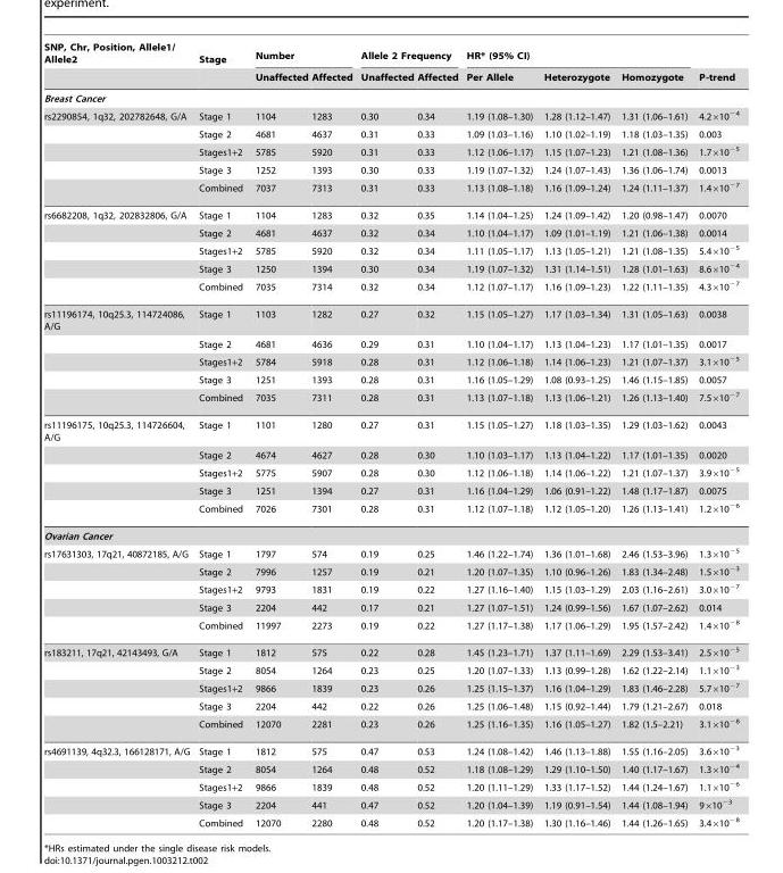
<table><thead><tr><td rowspan="2">SNP, Chr, Position, Allele1/ Allele2</td><td rowspan="2">Stage</td><td colspan="2">Number</td><td colspan="2">Allele 2 Frequency</td><td colspan="3">HR* (95% CI)</td><td rowspan="2">P-trend</td></tr><tr><td>Unaffected</td><td>Affected</td><td>Unaffected</td><td>Affected</td><td>Per Allele</td><td>Heterozygote</td><td>Homozygote</td></tr></thead><tbody><tr><td colspan="10">Breast Cancer</td></tr><tr><td rowspan="5">rs2290854, 1q32, 202782648, G/A</td><td>Stage 1</td><td>1104</td><td>1283</td><td>0.30</td><td>0.34</td><td>1.19 (1.08–1.30)</td><td>1.28 (1.12–1.47)</td><td>1.31 (1.06–1.61)</td><td>4.2×10<sup>−4</sup></td></tr><tr><td>Stage 2</td><td>4681</td><td>4637</td><td>0.31</td><td>0.33</td><td>1.09 (1.03–1.16)</td><td>1.10 (1.02–1.19)</td><td>1.18 (1.03–1.35)</td><td>0.003</td></tr><tr><td>Stages1+2</td><td>5785</td><td>5920</td><td>0.31</td><td>0.33</td><td>1.12 (1.06–1.17)</td><td>1.15 (1.07–1.23)</td><td>1.21 (1.08–1.36)</td><td>1.7×10<sup>−5</sup></td></tr><tr><td>Stage 3</td><td>1252</td><td>1393</td><td>0.30</td><td>0.33</td><td>1.19 (1.07–1.32)</td><td>1.24 (1.07–1.43)</td><td>1.36 (1.06–1.74)</td><td>0.0013</td></tr><tr><td>Combined</td><td>7037</td><td>7313</td><td>0.31</td><td>0.33</td><td>1.13 (1.08–1.18)</td><td>1.16 (1.09–1.24)</td><td>1.24 (1.11–1.37)</td><td>1.4×10<sup>−7</sup></td></tr><tr><td rowspan="5">rs6682208, 1q32, 202832806, G/A</td><td>Stage 1</td><td>1104</td><td>1283</td><td>0.32</td><td>0.35</td><td>1.14 (1.04–1.25)</td><td>1.24 (1.09–1.42)</td><td>1.20 (0.98–1.47)</td><td>0.0070</td></tr><tr><td>Stage 2</td><td>4681</td><td>4637</td><td>0.32</td><td>0.34</td><td>1.10 (1.04–1.17)</td><td>1.09 (1.01–1.19)</td><td>1.21 (1.06–1.38)</td><td>0.0014</td></tr><tr><td>Stages1+2</td><td>5785</td><td>5920</td><td>0.32</td><td>0.34</td><td>1.11 (1.05–1.17)</td><td>1.13 (1.05–1.21)</td><td>1.21 (1.08–1.35)</td><td>5.4×10<sup>−5</sup></td></tr><tr><td>Stage 3</td><td>1250</td><td>1394</td><td>0.30</td><td>0.34</td><td>1.19 (1.07–1.32)</td><td>1.31 (1.14–1.51)</td><td>1.28 (1.01–1.63)</td><td>8.6×10<sup>−4</sup></td></tr><tr><td>Combined</td><td>7035</td><td>7314</td><td>0.32</td><td>0.34</td><td>1.12 (1.07–1.17)</td><td>1.16 (1.09–1.23)</td><td>1.22 (1.11–1.35)</td><td>4.3×10<sup>−7</sup></td></tr><tr><td rowspan="5">rs11196174, 10q25.3, 114724086, A/G</td><td>Stage 1</td><td>1103</td><td>1282</td><td>0.27</td><td>0.32</td><td>1.15 (1.05–1.27)</td><td>1.17 (1.03–1.34)</td><td>1.31 (1.05–1.63)</td><td>0.0038</td></tr><tr><td>Stage 2</td><td>4681</td><td>4636</td><td>0.29</td><td>0.31</td><td>1.10 (1.04–1.17)</td><td>1.13 (1.04–1.23)</td><td>1.17 (1.01–1.35)</td><td>0.0017</td></tr><tr><td>Stages1+2</td><td>5784</td><td>5918</td><td>0.28</td><td>0.31</td><td>1.12 (1.06–1.18)</td><td>1.14 (1.06–1.23)</td><td>1.21 (1.07–1.37)</td><td>3.1×10<sup>−5</sup></td></tr><tr><td>Stage 3</td><td>1251</td><td>1393</td><td>0.28</td><td>0.31</td><td>1.16 (1.05–1.29)</td><td>1.08 (0.93–1.25)</td><td>1.46 (1.15–1.85)</td><td>0.0057</td></tr><tr><td>Combined</td><td>7035</td><td>7311</td><td>0.28</td><td>0.31</td><td>1.13 (1.07–1.18)</td><td>1.13 (1.06–1.21)</td><td>1.26 (1.13–1.40)</td><td>7.5×10<sup>−7</sup></td></tr><tr><td rowspan="5">rs11196175, 10q25.3, 114726604, A/G</td><td>Stage 1</td><td>1101</td><td>1280</td><td>0.27</td><td>0.31</td><td>1.15 (1.05–1.27)</td><td>1.18 (1.03–1.35)</td><td>1.29 (1.03–1.62)</td><td>0.0043</td></tr><tr><td>Stage 2</td><td>4674</td><td>4627</td><td>0.28</td><td>0.30</td><td>1.10 (1.03–1.17)</td><td>1.13 (1.04–1.22)</td><td>1.17 (1.01–1.35)</td><td>0.0020</td></tr><tr><td>Stages1+2</td><td>5775</td><td>5907</td><td>0.28</td><td>0.30</td><td>1.12 (1.06–1.18)</td><td>1.14 (1.06–1.22)</td><td>1.21 (1.07–1.37)</td><td>3.9×10<sup>−5</sup></td></tr><tr><td>Stage 3</td><td>1251</td><td>1394</td><td>0.27</td><td>0.31</td><td>1.16 (1.04–1.29)</td><td>1.06 (0.91–1.22)</td><td>1.48 (1.17–1.87)</td><td>0.0075</td></tr><tr><td>Combined</td><td>7026</td><td>7301</td><td>0.28</td><td>0.31</td><td>1.12 (1.07–1.18)</td><td>1.12 (1.05–1.20)</td><td>1.26 (1.13–1.41)</td><td>1.2×10<sup>−6</sup></td></tr><tr><td colspan="10">Ovarian Cancer</td></tr><tr><td rowspan="5">rs17631303, 17q21, 40872185, A/G</td><td>Stage 1</td><td>1797</td><td>574</td><td>0.19</td><td>0.25</td><td>1.46 (1.22–1.74)</td><td>1.36 (1.01–1.68)</td><td>2.46 (1.53–3.96)</td><td>1.3×10<sup>−5</sup></td></tr><tr><td>Stage 2</td><td>7996</td><td>1257</td><td>0.19</td><td>0.21</td><td>1.20 (1.07–1.35)</td><td>1.10 (0.96–1.26)</td><td>1.83 (1.34–2.48)</td><td>1.5×10<sup>−3</sup></td></tr><tr><td>Stages1+2</td><td>9793</td><td>1831</td><td>0.19</td><td>0.22</td><td>1.27 (1.16–1.40)</td><td>1.15 (1.03–1.29)</td><td>2.03 (1.16–2.61)</td><td>3.0×10<sup>−7</sup></td></tr><tr><td>Stage 3</td><td>2204</td><td>442</td><td>0.17</td><td>0.21</td><td>1.27 (1.07–1.51)</td><td>1.24 (0.99–1.56)</td><td>1.67 (1.07–2.62)</td><td>0.014</td></tr><tr><td>Combined</td><td>11997</td><td>2273</td><td>0.19</td><td>0.22</td><td>1.27 (1.17–1.38)</td><td>1.17 (1.06–1.29)</td><td>1.95 (1.57–2.42)</td><td>1.4×10<sup>−8</sup></td></tr><tr><td rowspan="5">rs183211, 17q21, 42143493, G/A</td><td>Stage 1</td><td>1812</td><td>575</td><td>0.22</td><td>0.28</td><td>1.45 (1.23–1.71)</td><td>1.37 (1.11–1.69)</td><td>2.29 (1.53–3.41)</td><td>2.5×10<sup>−5</sup></td></tr><tr><td>Stage 2</td><td>8054</td><td>1264</td><td>0.23</td><td>0.25</td><td>1.20 (1.07–1.33)</td><td>1.13 (0.99–1.28)</td><td>1.62 (1.22–2.14)</td><td>1.1×10<sup>−3</sup></td></tr><tr><td>Stages1+2</td><td>9866</td><td>1839</td><td>0.23</td><td>0.26</td><td>1.25 (1.15–1.37)</td><td>1.16 (1.04–1.29)</td><td>1.83 (1.46–2.28)</td><td>5.7×10<sup>−7</sup></td></tr><tr><td>Stage 3</td><td>2204</td><td>442</td><td>0.22</td><td>0.26</td><td>1.25 (1.06–1.48)</td><td>1.15 (0.92–1.44)</td><td>1.79 (1.21–2.67)</td><td>0.018</td></tr><tr><td>Combined</td><td>12070</td><td>2281</td><td>0.23</td><td>0.26</td><td>1.25 (1.16–1.35)</td><td>1.16 (1.05–1.27)</td><td>1.82 (1.5–2.21)</td><td>3.1×10<sup>−8</sup></td></tr><tr><td rowspan="5">rs4691139, 4q32.3, 166128171, A/G</td><td>Stage 1</td><td>1812</td><td>575</td><td>0.47</td><td>0.53</td><td>1.24 (1.08–1.42)</td><td>1.46 (1.13–1.88)</td><td>1.55 (1.16–2.05)</td><td>3.6×10<sup>−3</sup></td></tr><tr><td>Stage 2</td><td>8054</td><td>1264</td><td>0.48</td><td>0.52</td><td>1.18 (1.08–1.29)</td><td>1.29 (1.10–1.50)</td><td>1.40 (1.17–1.67)</td><td>1.3×10<sup>−4</sup></td></tr><tr><td>Stages1+2</td><td>9866</td><td>1839</td><td>0.48</td><td>0.52</td><td>1.20 (1.11–1.29)</td><td>1.33 (1.17–1.52)</td><td>1.44 (1.24–1.67)</td><td>1.1×10<sup>−6</sup></td></tr><tr><td>Stage 3</td><td>2204</td><td>441</td><td>0.47</td><td>0.52</td><td>1.20 (1.04–1.39)</td><td>1.19 (0.91–1.54)</td><td>1.44 (1.08–1.94)</td><td>9×10<sup>−3</sup></td></tr><tr><td>Combined</td><td>12070</td><td>2280</td><td>0.48</td><td>0.52</td><td>1.20 (1.17–1.38)</td><td>1.30 (1.16–1.46)</td><td>1.44 (1.26–1.65)</td><td>3.4×10<sup>−8</sup></td></tr></tbody></table>